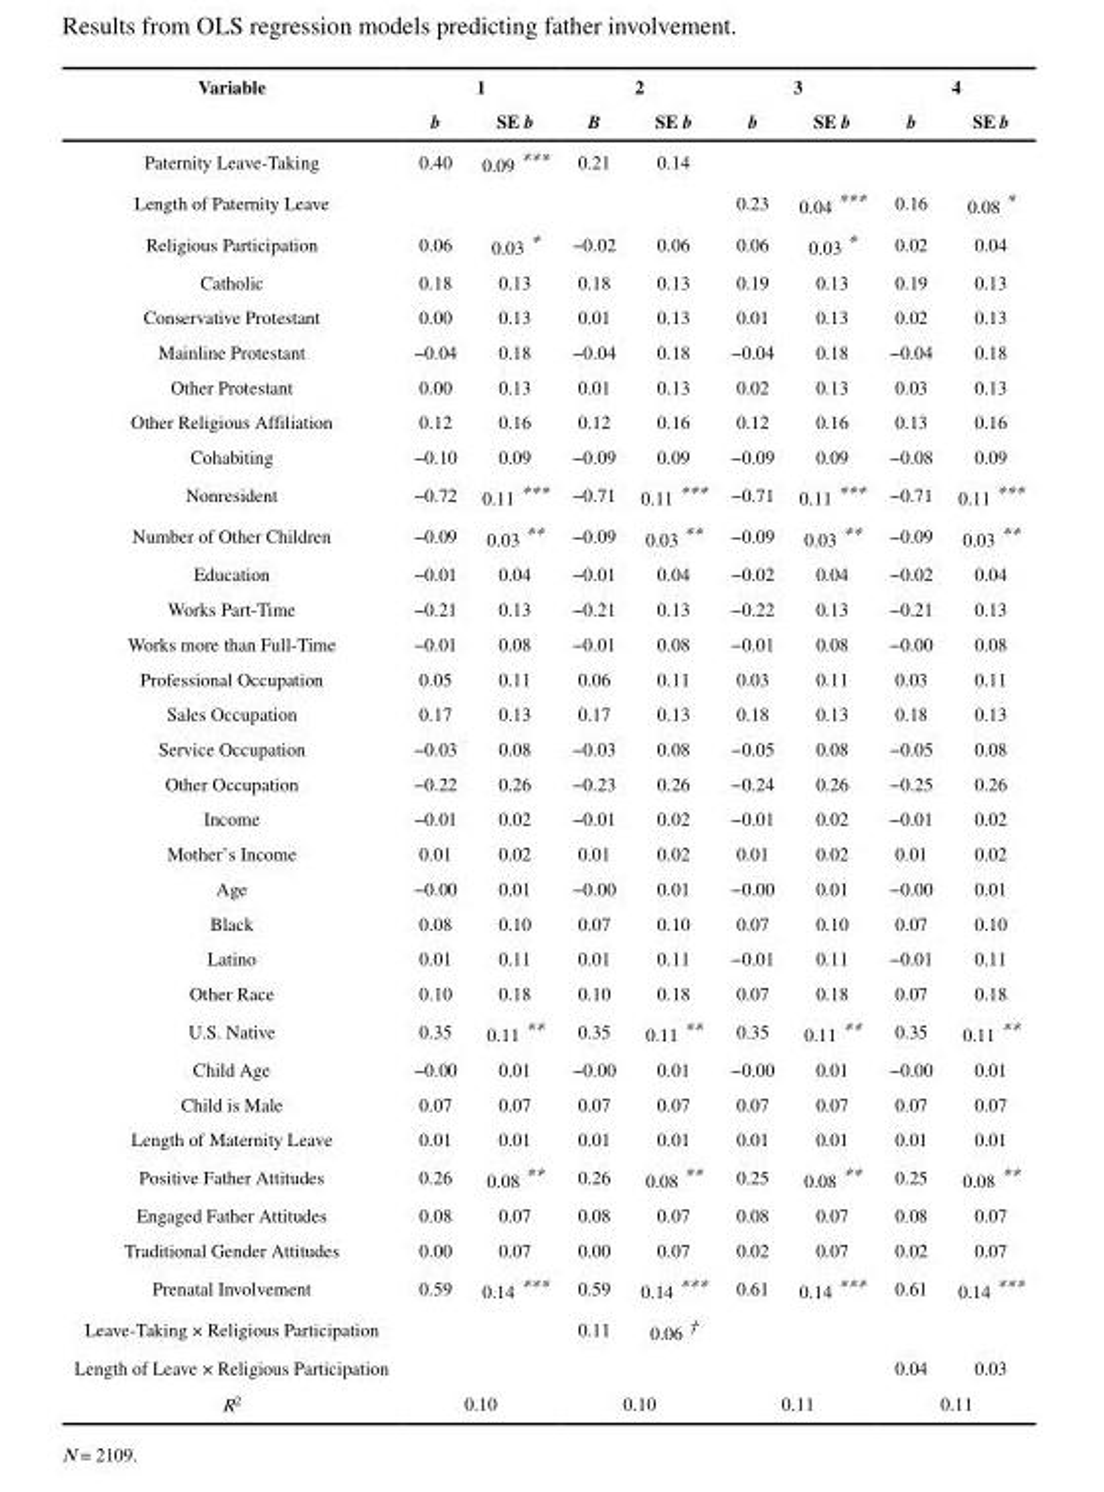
<table><thead><tr><td rowspan="2">Variable</td><td colspan="2">1</td><td colspan="2">2</td><td colspan="2">3</td><td colspan="2">4</td></tr><tr><td>b</td><td>SE b</td><td>B</td><td>SE b</td><td>b</td><td>SE b</td><td>b</td><td>SE b</td></tr></thead><tbody><tr><td>Paternity Leave-Taking</td><td>0.40</td><td>0.09 ***</td><td>0.21</td><td>0.14</td><td></td><td></td><td></td><td></td></tr><tr><td>Length of Paternity Leave</td><td></td><td></td><td></td><td></td><td>0.23</td><td>0.04 ***</td><td>0.16</td><td>0.08 *</td></tr><tr><td>Religious Participation</td><td>0.06</td><td>0.03 *</td><td>−0.02</td><td>0.06</td><td>0.06</td><td>0.03 *</td><td>0.02</td><td>0.04</td></tr><tr><td>Catholic</td><td>0.18</td><td>0.13</td><td>0.18</td><td>0.13</td><td>0.19</td><td>0.13</td><td>0.19</td><td>0.13</td></tr><tr><td>Conservative Protestant</td><td>0.00</td><td>0.13</td><td>0.01</td><td>0.13</td><td>0.01</td><td>0.13</td><td>0.02</td><td>0.13</td></tr><tr><td>Mainline Protestant</td><td>−0.04</td><td>0.18</td><td>−0.04</td><td>0.18</td><td>−0.04</td><td>0.18</td><td>−0.04</td><td>0.18</td></tr><tr><td>Other Protestant</td><td>0.00</td><td>0.13</td><td>0.01</td><td>0.13</td><td>0.02</td><td>0.13</td><td>0.03</td><td>0.13</td></tr><tr><td>Other Religious Affiliation</td><td>0.12</td><td>0.16</td><td>0.12</td><td>0.16</td><td>0.12</td><td>0.16</td><td>0.13</td><td>0.16</td></tr><tr><td>Cohabiting</td><td>−0.10</td><td>0.09</td><td>−0.09</td><td>0.09</td><td>−0.09</td><td>0.09</td><td>−0.08</td><td>0.09</td></tr><tr><td>Nonresident</td><td>−0.72</td><td>0.11 ***</td><td>−0.71</td><td>0.11 ***</td><td>−0.71</td><td>0.11 ***</td><td>−0.71</td><td>0.11 ***</td></tr><tr><td>Number of Other Children</td><td>−0.09</td><td>0.03 **</td><td>−0.09</td><td>0.03 **</td><td>−0.09</td><td>0.03 **</td><td>−0.09</td><td>0.03 **</td></tr><tr><td>Education</td><td>−0.01</td><td>0.04</td><td>−0.01</td><td>0.04</td><td>−0.02</td><td>0.04</td><td>−0.02</td><td>0.04</td></tr><tr><td>Works Part-Time</td><td>−0.21</td><td>0.13</td><td>−0.21</td><td>0.13</td><td>−0.22</td><td>0.13</td><td>−0.21</td><td>0.13</td></tr><tr><td>Works more than Full-Time</td><td>−0.01</td><td>0.08</td><td>−0.01</td><td>0.08</td><td>−0.01</td><td>0.08</td><td>−0.00</td><td>0.08</td></tr><tr><td>Professional Occupation</td><td>0.05</td><td>0.11</td><td>0.06</td><td>0.11</td><td>0.03</td><td>0.11</td><td>0.03</td><td>0.11</td></tr><tr><td>Sales Occupation</td><td>0.17</td><td>0.13</td><td>0.17</td><td>0.13</td><td>0.18</td><td>0.13</td><td>0.18</td><td>0.13</td></tr><tr><td>Service Occupation</td><td>−0.03</td><td>0.08</td><td>−0.03</td><td>0.08</td><td>−0.05</td><td>0.08</td><td>−0.05</td><td>0.08</td></tr><tr><td>Other Occupation</td><td>−0.22</td><td>0.26</td><td>−0.23</td><td>0.26</td><td>−0.24</td><td>0.26</td><td>−0.25</td><td>0.26</td></tr><tr><td>Income</td><td>−0.01</td><td>0.02</td><td>−0.01</td><td>0.02</td><td>−0.01</td><td>0.02</td><td>−0.01</td><td>0.02</td></tr><tr><td>Mother’s Income</td><td>0.01</td><td>0.02</td><td>0.01</td><td>0.02</td><td>0.01</td><td>0.02</td><td>0.01</td><td>0.02</td></tr><tr><td>Age</td><td>−0.00</td><td>0.01</td><td>−0.00</td><td>0.01</td><td>−0.00</td><td>0.01</td><td>−0.00</td><td>0.01</td></tr><tr><td>Black</td><td>0.08</td><td>0.10</td><td>0.07</td><td>0.10</td><td>0.07</td><td>0.10</td><td>0.07</td><td>0.10</td></tr><tr><td>Latino</td><td>0.01</td><td>0.11</td><td>0.01</td><td>0.11</td><td>−0.01</td><td>0.11</td><td>−0.01</td><td>0.11</td></tr><tr><td>Other Race</td><td>0.10</td><td>0.18</td><td>0.10</td><td>0.18</td><td>0.07</td><td>0.18</td><td>0.07</td><td>0.18</td></tr><tr><td>U.S. Native</td><td>0.35</td><td>0.11 **</td><td>0.35</td><td>0.11 **</td><td>0.35</td><td>0.11 **</td><td>0.35</td><td>0.11 **</td></tr><tr><td>Child Age</td><td>−0.00</td><td>0.01</td><td>−0.00</td><td>0.01</td><td>−0.00</td><td>0.01</td><td>−0.00</td><td>0.01</td></tr><tr><td>Child is Male</td><td>0.07</td><td>0.07</td><td>0.07</td><td>0.07</td><td>0.07</td><td>0.07</td><td>0.07</td><td>0.07</td></tr><tr><td>Length of Maternity Leave</td><td>0.01</td><td>0.01</td><td>0.01</td><td>0.01</td><td>0.01</td><td>0.01</td><td>0.01</td><td>0.01</td></tr><tr><td>Positive Father Attitudes</td><td>0.26</td><td>0.08 **</td><td>0.26</td><td>0.08 **</td><td>0.25</td><td>0.08 **</td><td>0.25</td><td>0.08 **</td></tr><tr><td>Engaged Father Attitudes</td><td>0.08</td><td>0.07</td><td>0.08</td><td>0.07</td><td>0.08</td><td>0.07</td><td>0.08</td><td>0.07</td></tr><tr><td>Traditional Gender Attitudes</td><td>0.00</td><td>0.07</td><td>0.00</td><td>0.07</td><td>0.02</td><td>0.07</td><td>0.02</td><td>0.07</td></tr><tr><td>Prenatal Involvement</td><td>0.59</td><td>0.14 ***</td><td>0.59</td><td>0.14 ***</td><td>0.61</td><td>0.14 ***</td><td>0.61</td><td>0.14 ***</td></tr><tr><td>Leave-Taking × Religious Participation</td><td></td><td></td><td>0.11</td><td>0.06 †</td><td></td><td></td><td></td><td></td></tr><tr><td>Length of Leave × Religious Participation</td><td></td><td></td><td></td><td></td><td></td><td></td><td>0.04</td><td>0.03</td></tr><tr><td>R<sup>2</sup></td><td colspan="2">0.10</td><td colspan="2">0.10</td><td colspan="2">0.11</td><td colspan="2">0.11</td></tr></tbody></table>